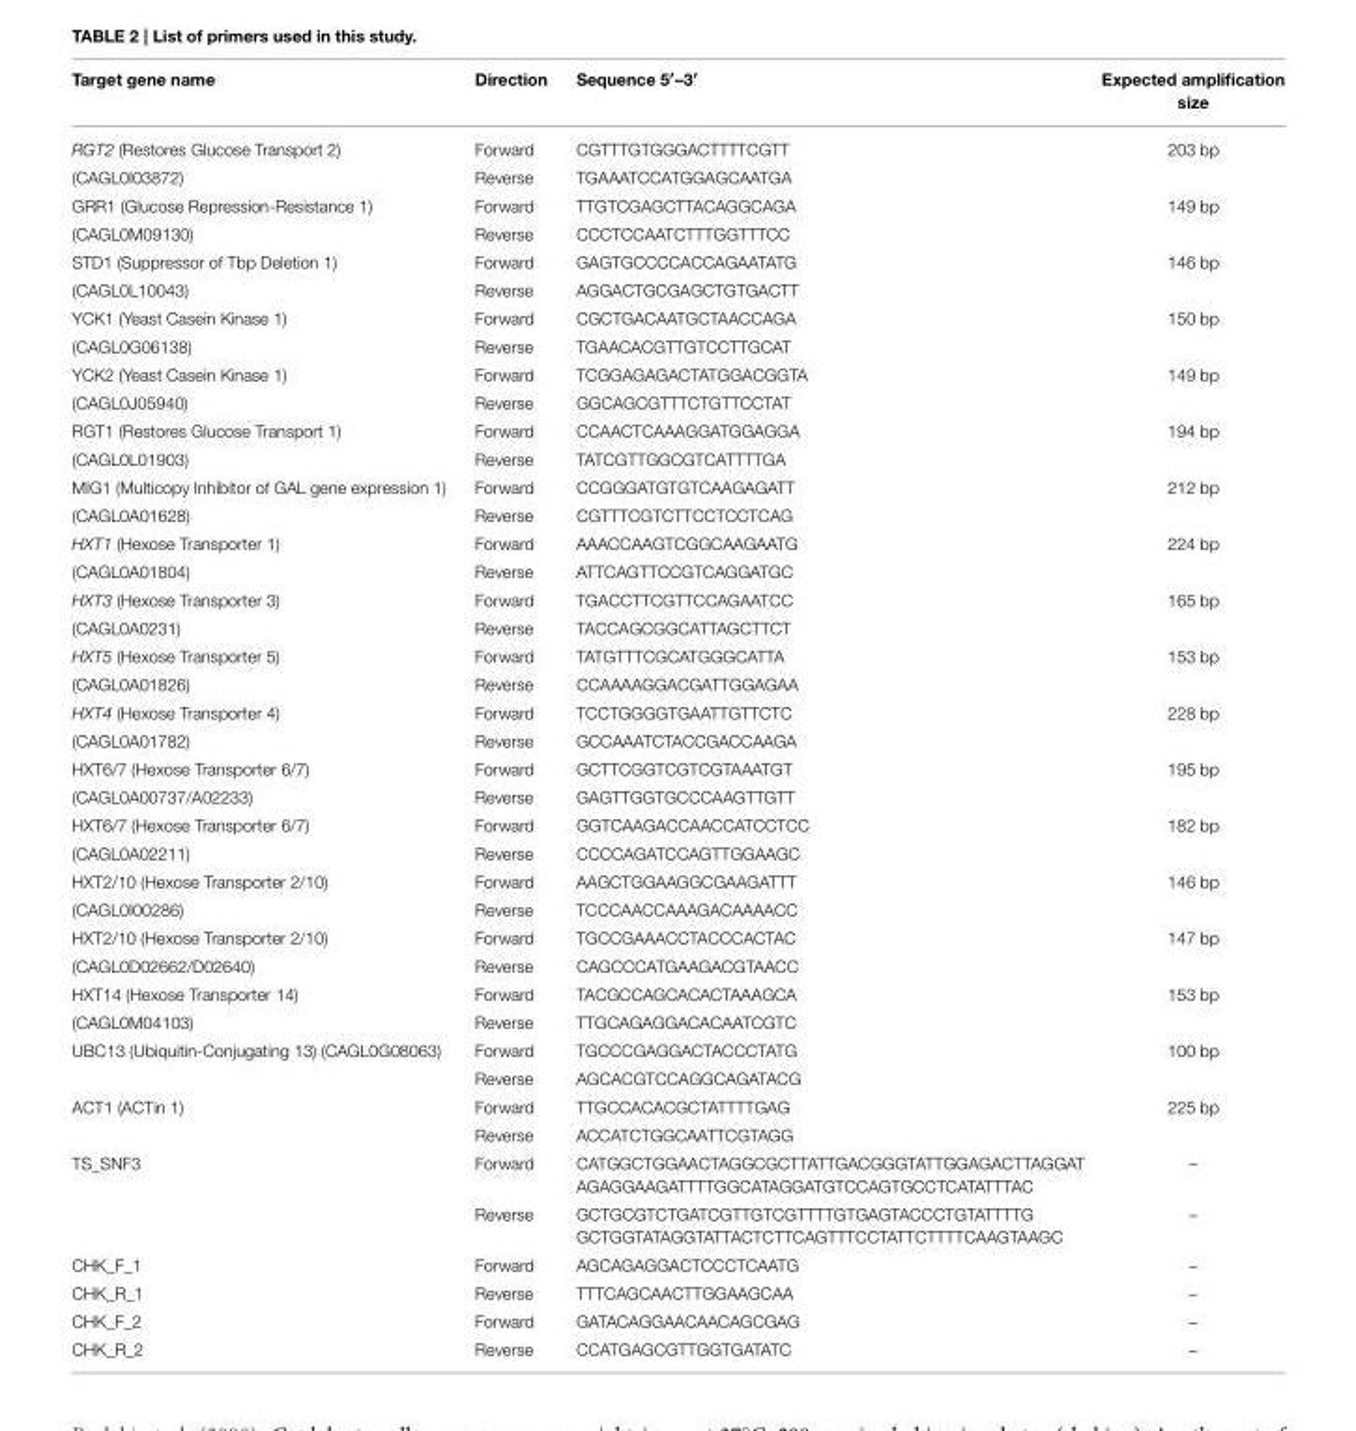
<table><thead><tr><td>Target gene name</td><td>Direction</td><td>Sequence 5′–3′</td><td>Expected amplification size</td></tr></thead><tbody><tr><td>RGT2 (Restores Glucose Transport 2)</td><td>Forward</td><td>CGTTTGTGGGACTTTTCGTT</td><td>203 bp</td></tr><tr><td>(CAGL0I03872)</td><td>Reverse</td><td>TGAAATCCATGGAGCAATGA</td><td></td></tr><tr><td>GRR1 (Glucose Repression-Resistance 1)</td><td>Forward</td><td>TTGTCGAGCTTACAGGCAGA</td><td>149 bp</td></tr><tr><td>(CAGL0M09130)</td><td>Reverse</td><td>CCCTCCAATCTTTGGTTTCC</td><td></td></tr><tr><td>STD1 (Suppressor of Tbp Deletion 1)</td><td>Forward</td><td>GAGTGCCCCACCAGAATATG</td><td>146 bp</td></tr><tr><td>(CAGL0L10043)</td><td>Reverse</td><td>AGGACTGCGAGCTGTGACTT</td><td></td></tr><tr><td>YCK1 (Yeast Casein Kinase 1)</td><td>Forward</td><td>CGCTGACAATGCTAACCAGA</td><td>150 bp</td></tr><tr><td>(CAGL0G06138)</td><td>Reverse</td><td>TGAACACGTTGTCCTTGCAT</td><td></td></tr><tr><td>YCK2 (Yeast Casein Kinase 1)</td><td>Forward</td><td>TCGGAGAGACTATGGACGGTA</td><td>149 bp</td></tr><tr><td>(CAGL0J05940)</td><td>Reverse</td><td>GGCAGCGTTTCTGTTCCTAT</td><td></td></tr><tr><td>RGT1 (Restores Glucose Transport 1)</td><td>Forward</td><td>CCAACTCAAAGGATGGAGGA</td><td>194 bp</td></tr><tr><td>(CAGL0L01903)</td><td>Reverse</td><td>TATCGTTGGCGTCATTTTGA</td><td></td></tr><tr><td>MIG1 (Multicopy Inhibitor of GAL gene expression 1)</td><td>Forward</td><td>CCGGGATGTGTCAAGAGATT</td><td>212 bp</td></tr><tr><td>(CAGL0A01628)</td><td>Reverse</td><td>CGTTTCGTCTTCCTCCTCAG</td><td></td></tr><tr><td>HXT1 (Hexose Transporter 1)</td><td>Forward</td><td>AAACCAAGTCGGCAAGAATG</td><td>224 bp</td></tr><tr><td>(CAGL0A01804)</td><td>Reverse</td><td>ATTCAGTTCCGTCAGGATGC</td><td></td></tr><tr><td>HXT3 (Hexose Transporter 3)</td><td>Forward</td><td>TGACCTTCGTTCCAGAATCC</td><td>165 bp</td></tr><tr><td>(CAGL0A0231)</td><td>Reverse</td><td>TACCAGCGGCATTAGCTTCT</td><td></td></tr><tr><td>HXT5 (Hexose Transporter 5)</td><td>Forward</td><td>TATGTTTCGCATGGGCATTA</td><td>153 bp</td></tr><tr><td>(CAGL0A01826)</td><td>Reverse</td><td>CCAAAAGGACGATTGGAGAA</td><td></td></tr><tr><td>HXT4 (Hexose Transporter 4)</td><td>Forward</td><td>TCCTGGGGTGAATTGTTCTC</td><td>228 bp</td></tr><tr><td>(CAGL0A01782)</td><td>Reverse</td><td>GCCAAATCTACCGACCAAGA</td><td></td></tr><tr><td>HXT6/7 (Hexose Transporter 6/7)</td><td>Forward</td><td>GCTTCGGTCGTCGTAAATGT</td><td>195 bp</td></tr><tr><td>(CAGL0A00737/A02233)</td><td>Reverse</td><td>GAGTTGGTGCCCAAGTTGTT</td><td></td></tr><tr><td>HXT6/7 (Hexose Transporter 6/7)</td><td>Forward</td><td>GGTCAAGACCAACCATCCTCC</td><td>182 bp</td></tr><tr><td>(CAGL0A02211)</td><td>Reverse</td><td>CCCCAGATCCAGTTGGAAGC</td><td></td></tr><tr><td>HXT2/10 (Hexose Transporter 2/10)</td><td>Forward</td><td>AAGCTGGAAGGCGAAGATTT</td><td>146 bp</td></tr><tr><td>(CAGL0I00286)</td><td>Reverse</td><td>TCCCAACCAAAGACAAAACC</td><td></td></tr><tr><td>HXT2/10 (Hexose Transporter 2/10)</td><td>Forward</td><td>TGCCGAAACCTACCCACTAC</td><td>147 bp</td></tr><tr><td>(CAGL0D02662/D02640)</td><td>Reverse</td><td>CAGCCCATGAAGACGTAACC</td><td></td></tr><tr><td>HXT14 (Hexose Transporter 14)</td><td>Forward</td><td>TACGCCAGCACACTAAAGCA</td><td>153 bp</td></tr><tr><td>(CAGL0M04103)</td><td>Reverse</td><td>TTGCAGAGGACACAATCGTC</td><td></td></tr><tr><td rowspan="2">UBC13 (Ubiquitin-Conjugating 13) (CAGL0G08063)</td><td>Forward</td><td>TGCCCGAGGACTACCCTATG</td><td>100 bp</td></tr><tr><td>Reverse</td><td>AGCACGTCCAGGCAGATACG</td><td></td></tr><tr><td rowspan="2">ACT1 (ACTin 1)</td><td>Forward</td><td>TTGCCACACGCTATTTTGAG</td><td>225 bp</td></tr><tr><td>Reverse</td><td>ACCATCTGGCAATTCGTAGG</td><td></td></tr><tr><td rowspan="2">TS_SNF3</td><td>Forward</td><td>CATGGCTGGAACTAGGCGCTTATTGACGGGTATTGGAGACTTAGGAT AGAGGAAGATTTTGGCATAGGATGTCCAGTGCCTCATATTTAC</td><td>–</td></tr><tr><td>Reverse</td><td>GCTGCGTCTGATCGTTGTCGTTTTGTGAGTACCCTGTATTTTG GCTGGTATAGGTATTACTCTTCAGTTTCCTATTCTTTTCAAGTAAGC</td><td>–</td></tr><tr><td>CHK_F_1</td><td>Forward</td><td>AGCAGAGGACTCCCTCAATG</td><td>–</td></tr><tr><td>CHK_R_1</td><td>Reverse</td><td>TTTCAGCAACTTGGAAGCAA</td><td>–</td></tr><tr><td>CHK_F_2</td><td>Forward</td><td>GATACAGGAACAACAGCGAG</td><td>–</td></tr><tr><td>CHK_R_2</td><td>Reverse</td><td>CCATGAGCGTTGGTGATATC</td><td>–</td></tr></tbody></table>